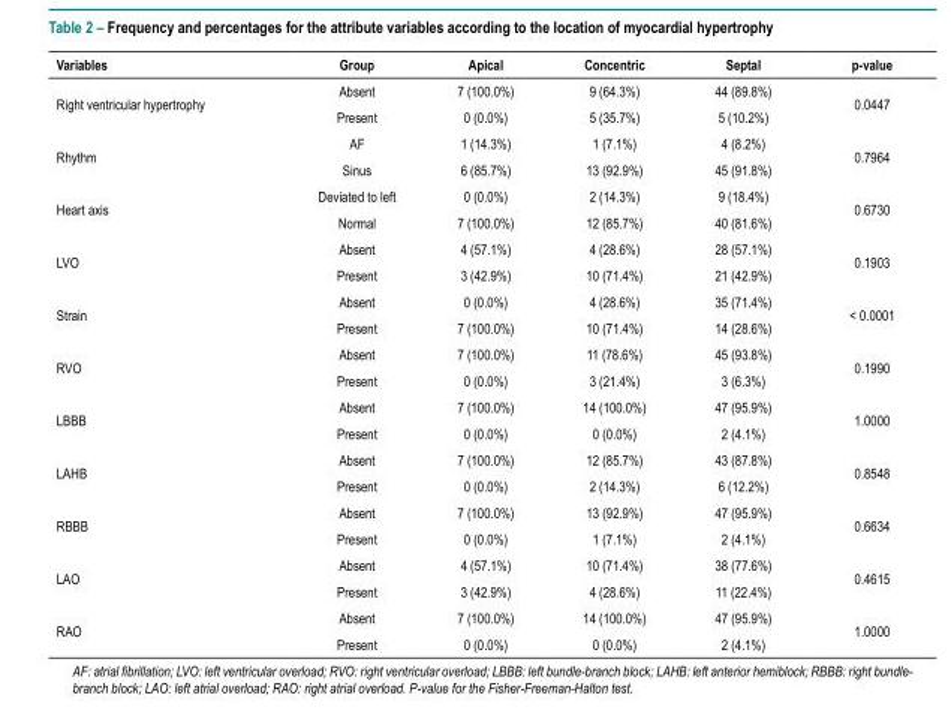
<table><thead><tr><td>Variables</td><td>Group</td><td>Apical</td><td>Concentric</td><td>Septal</td><td>p-value</td></tr></thead><tbody><tr><td rowspan="2">Right ventricular hypertrophy</td><td>Absent</td><td>7 (100.0%)</td><td>9 (64.3%)</td><td>44 (89.8%)</td><td rowspan="2">0.0447</td></tr><tr><td>Present</td><td>0 (0.0%)</td><td>5 (35.7%)</td><td>5 (10.2%)</td></tr><tr><td rowspan="2">Rhythm</td><td>AF</td><td>1 (14.3%)</td><td>1 (7.1%)</td><td>4 (8.2%)</td><td rowspan="2">0.7964</td></tr><tr><td>Sinus</td><td>6 (85.7%)</td><td>13 (92.9%)</td><td>45 (91.8%)</td></tr><tr><td rowspan="2">Heart axis</td><td>Deviated to left</td><td>0 (0.0%)</td><td>2 (14.3%)</td><td>9 (18.4%)</td><td rowspan="2">0.6730</td></tr><tr><td>Normal</td><td>7 (100.0%)</td><td>12 (85.7%)</td><td>40 (81.6%)</td></tr><tr><td rowspan="2">LVO</td><td>Absent</td><td>4 (57.1%)</td><td>4 (28.6%)</td><td>28 (57.1%)</td><td rowspan="2">0.1903</td></tr><tr><td>Present</td><td>3 (42.9%)</td><td>10 (71.4%)</td><td>21 (42.9%)</td></tr><tr><td rowspan="2">Strain</td><td>Absent</td><td>0 (0.0%)</td><td>4 (28.6%)</td><td>35 (71.4%)</td><td rowspan="2">&lt; 0.0001</td></tr><tr><td>Present</td><td>7 (100.0%)</td><td>10 (71.4%)</td><td>14 (28.6%)</td></tr><tr><td rowspan="2">RVO</td><td>Absent</td><td>7 (100.0%)</td><td>11 (78.6%)</td><td>45 (93.8%)</td><td rowspan="2">0.1990</td></tr><tr><td>Present</td><td>0 (0.0%)</td><td>3 (21.4%)</td><td>3 (6.3%)</td></tr><tr><td rowspan="2">LBBB</td><td>Absent</td><td>7 (100.0%)</td><td>14 (100.0%)</td><td>47 (95.9%)</td><td rowspan="2">1.0000</td></tr><tr><td>Present</td><td>0 (0.0%)</td><td>0 (0.0%)</td><td>2 (4.1%)</td></tr><tr><td rowspan="2">LAHB</td><td>Absent</td><td>7 (100.0%)</td><td>12 (85.7%)</td><td>43 (87.8%)</td><td rowspan="2">0.8548</td></tr><tr><td>Present</td><td>0 (0.0%)</td><td>2 (14.3%)</td><td>6 (12.2%)</td></tr><tr><td rowspan="2">RBBB</td><td>Absent</td><td>7 (100.0%)</td><td>13 (92.9%)</td><td>47 (95.9%)</td><td rowspan="2">0.6634</td></tr><tr><td>Present</td><td>0 (0.0%)</td><td>1 (7.1%)</td><td>2 (4.1%)</td></tr><tr><td rowspan="2">LAO</td><td>Absent</td><td>4 (57.1%)</td><td>10 (71.4%)</td><td>38 (77.6%)</td><td rowspan="2">0.4615</td></tr><tr><td>Present</td><td>3 (42.9%)</td><td>4 (28.6%)</td><td>11 (22.4%)</td></tr><tr><td rowspan="2">RAO</td><td>Absent</td><td>7 (100.0%)</td><td>14 (100.0%)</td><td>47 (95.9%)</td><td rowspan="2">1.0000</td></tr><tr><td>Present</td><td>0 (0.0%)</td><td>0 (0.0%)</td><td>2 (4.1%)</td></tr></tbody></table>